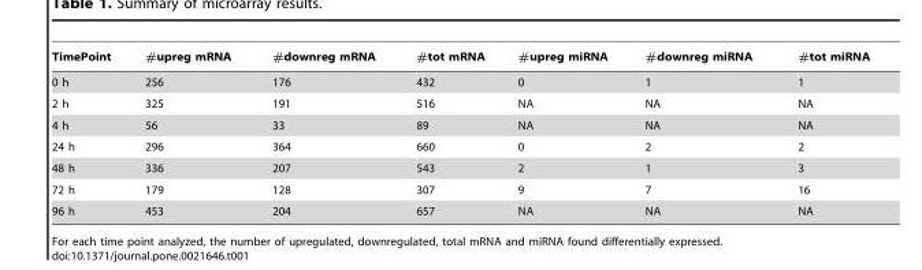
<table><thead><tr><td>TimePoint</td><td>#upreg mRNA</td><td>#downreg mRNA</td><td>#tot mRNA</td><td>#upreg miRNA</td><td>#downreg miRNA</td><td>#tot miRNA</td></tr></thead><tbody><tr><td>0 h</td><td>256</td><td>176</td><td>432</td><td>0</td><td>1</td><td>1</td></tr><tr><td>2 h</td><td>325</td><td>191</td><td>516</td><td>NA</td><td>NA</td><td>NA</td></tr><tr><td>4 h</td><td>56</td><td>33</td><td>89</td><td>NA</td><td>NA</td><td>NA</td></tr><tr><td>24 h</td><td>296</td><td>364</td><td>660</td><td>0</td><td>2</td><td>2</td></tr><tr><td>48 h</td><td>336</td><td>207</td><td>543</td><td>2</td><td>1</td><td>3</td></tr><tr><td>72 h</td><td>179</td><td>128</td><td>307</td><td>9</td><td>7</td><td>16</td></tr><tr><td>96 h</td><td>453</td><td>204</td><td>657</td><td>NA</td><td>NA</td><td>NA</td></tr></tbody></table>